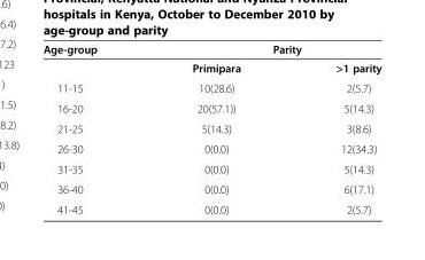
<table><thead><tr><td rowspan="2">Age-group</td><td colspan="2">Parity</td></tr><tr><td>Primipara</td><td>&gt;1 parity</td></tr></thead><tbody><tr><td>11-15</td><td>10(28.6)</td><td>2(5.7)</td></tr><tr><td>16-20</td><td>20(57.1))</td><td>5(14.3)</td></tr><tr><td>21-25</td><td>5(14.3)</td><td>3(8.6)</td></tr><tr><td>26-30</td><td>0(0.0)</td><td>12(34.3)</td></tr><tr><td>31-35</td><td>0(0.0)</td><td>5(14.3)</td></tr><tr><td>36-40</td><td>0(0.0)</td><td>6(17.1)</td></tr><tr><td>41-45</td><td>0(0.0)</td><td>2(5.7)</td></tr></tbody></table>